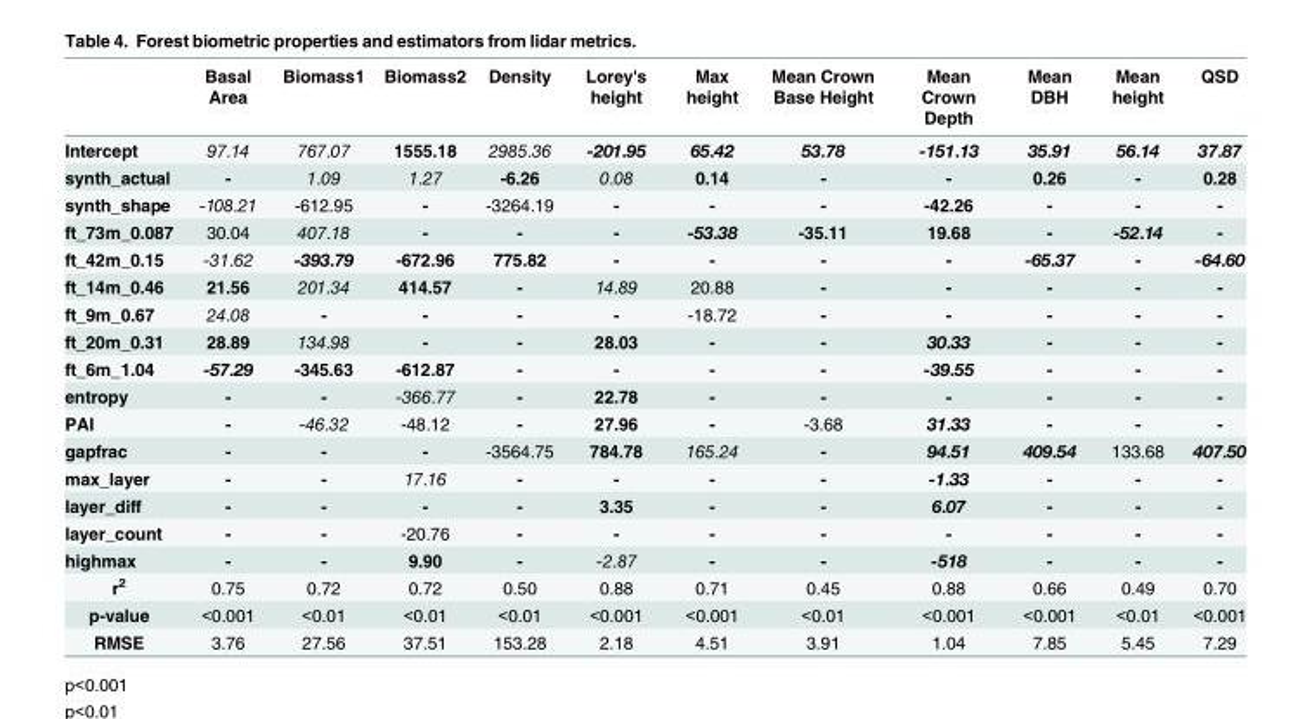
<table><thead><tr><td></td><td>Basal Area</td><td>Biomass1</td><td>Biomass2</td><td>Density</td><td>Lorey&#x27;s height</td><td>Max height</td><td>Mean Crown Base Height</td><td>Mean Crown Depth</td><td>Mean DBH</td><td>Mean height</td><td>QSD</td></tr></thead><tbody><tr><td>Intercept</td><td>97.14</td><td>767.07</td><td>1555.18</td><td>2985.36</td><td>-201.95</td><td>65.42</td><td>53.78</td><td>-151.13</td><td>35.91</td><td>56.14</td><td>37.87</td></tr><tr><td>synth_actual</td><td>-</td><td>1.09</td><td>1.27</td><td>-6.26</td><td>0.08</td><td>0.14</td><td>-</td><td>-</td><td>0.26</td><td>-</td><td>0.28</td></tr><tr><td>synth_shape</td><td>-108.21</td><td>-612.95</td><td>-</td><td>-3264.19</td><td>-</td><td>-</td><td>-</td><td>-42.26</td><td>-</td><td>-</td><td>-</td></tr><tr><td>ft_73m_0.087</td><td>30.04</td><td>407.18</td><td>-</td><td>-</td><td>-</td><td>-53.38</td><td>-35.11</td><td>19.68</td><td>-</td><td>-52.14</td><td>-</td></tr><tr><td>ft_42m_0.15</td><td>-31.62</td><td>-393.79</td><td>-672.96</td><td>775.82</td><td>-</td><td>-</td><td>-</td><td>-</td><td>-65.37</td><td>-</td><td>-64.60</td></tr><tr><td>ft_14m_0.46</td><td>21.56</td><td>201.34</td><td>414.57</td><td>-</td><td>14.89</td><td>20.88</td><td>-</td><td>-</td><td>-</td><td>-</td><td>-</td></tr><tr><td>ft_9m_0.67</td><td>24.08</td><td>-</td><td>-</td><td>-</td><td>-</td><td>-18.72</td><td>-</td><td>-</td><td>-</td><td>-</td><td>-</td></tr><tr><td>ft_20m_0.31</td><td>28.89</td><td>134.98</td><td>-</td><td>-</td><td>28.03</td><td>-</td><td>-</td><td>30.33</td><td>-</td><td>-</td><td>-</td></tr><tr><td>ft_6m_1.04</td><td>-57.29</td><td>-345.63</td><td>-612.87</td><td>-</td><td>-</td><td>-</td><td>-</td><td>-39.55</td><td>-</td><td>-</td><td>-</td></tr><tr><td>entropy</td><td>-</td><td>-</td><td>-366.77</td><td>-</td><td>22.78</td><td>-</td><td>-</td><td>-</td><td>-</td><td>-</td><td>-</td></tr><tr><td>PAI</td><td>-</td><td>-46.32</td><td>-48.12</td><td>-</td><td>27.96</td><td>-</td><td>-3.68</td><td>31.33</td><td>-</td><td>-</td><td>-</td></tr><tr><td>gapfrac</td><td>-</td><td>-</td><td>-</td><td>-3564.75</td><td>784.78</td><td>165.24</td><td>-</td><td>94.51</td><td>409.54</td><td>133.68</td><td>407.50</td></tr><tr><td>max_layer</td><td>-</td><td>-</td><td>17.16</td><td>-</td><td>-</td><td>-</td><td>-</td><td>-1.33</td><td>-</td><td>-</td><td>-</td></tr><tr><td>layer_diff</td><td>-</td><td>-</td><td>-</td><td>-</td><td>3.35</td><td>-</td><td>-</td><td>6.07</td><td>-</td><td>-</td><td>-</td></tr><tr><td>layer_count</td><td>-</td><td>-</td><td>-20.76</td><td>-</td><td>-</td><td>-</td><td>-</td><td>-</td><td>-</td><td>-</td><td>-</td></tr><tr><td>highmax</td><td>-</td><td>-</td><td>9.90</td><td>-</td><td>-2.87</td><td>-</td><td>-</td><td>-518</td><td>-</td><td>-</td><td>-</td></tr><tr><td>r<sup>2</sup></td><td>0.75</td><td>0.72</td><td>0.72</td><td>0.50</td><td>0.88</td><td>0.71</td><td>0.45</td><td>0.88</td><td>0.66</td><td>0.49</td><td>0.70</td></tr><tr><td>p-value</td><td>&lt;0.001</td><td>&lt;0.01</td><td>&lt;0.01</td><td>&lt;0.01</td><td>&lt;0.001</td><td>&lt;0.001</td><td>&lt;0.01</td><td>&lt;0.001</td><td>&lt;0.001</td><td>&lt;0.01</td><td>&lt;0.001</td></tr><tr><td>RMSE</td><td>3.76</td><td>27.56</td><td>37.51</td><td>153.28</td><td>2.18</td><td>4.51</td><td>3.91</td><td>1.04</td><td>7.85</td><td>5.45</td><td>7.29</td></tr></tbody></table>